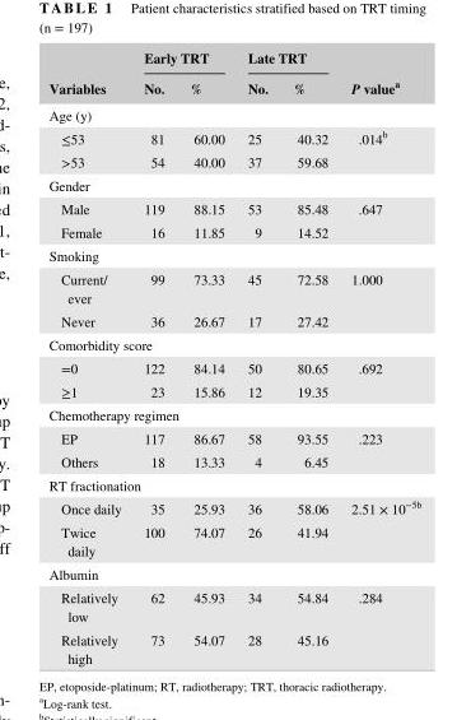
<table><thead><tr><td rowspan="2">Variables</td><td colspan="2">Early TRT</td><td colspan="2">Late TRT</td><td rowspan="2">P value<sup>a</sup></td></tr><tr><td>No.</td><td>%</td><td>No.</td><td>%</td></tr></thead><tbody><tr><td colspan="6">Age (y)</td></tr><tr><td>≤53</td><td>81</td><td>60.00</td><td>25</td><td>40.32</td><td rowspan="2">.014<sup>b</sup></td></tr><tr><td>&gt;53</td><td>54</td><td>40.00</td><td>37</td><td>59.68</td></tr><tr><td colspan="6">Gender</td></tr><tr><td>Male</td><td>119</td><td>88.15</td><td>53</td><td>85.48</td><td rowspan="2">.647</td></tr><tr><td>Female</td><td>16</td><td>11.85</td><td>9</td><td>14.52</td></tr><tr><td colspan="6">Smoking</td></tr><tr><td>Current/ ever</td><td>99</td><td>73.33</td><td>45</td><td>72.58</td><td rowspan="2">1.000</td></tr><tr><td>Never</td><td>36</td><td>26.67</td><td>17</td><td>27.42</td></tr><tr><td colspan="6">Comorbidity score</td></tr><tr><td>=0</td><td>122</td><td>84.14</td><td>50</td><td>80.65</td><td rowspan="2">.692</td></tr><tr><td>≥1</td><td>23</td><td>15.86</td><td>12</td><td>19.35</td></tr><tr><td colspan="6">Chemotherapy regimen</td></tr><tr><td>EP</td><td>117</td><td>86.67</td><td>58</td><td>93.55</td><td rowspan="2">.223</td></tr><tr><td>Others</td><td>18</td><td>13.33</td><td>4</td><td>6.45</td></tr><tr><td colspan="6">RT fractionation</td></tr><tr><td>Once daily</td><td>35</td><td>25.93</td><td>36</td><td>58.06</td><td rowspan="2">2.51 × 10<sup>−5</sup>b</td></tr><tr><td>Twice daily</td><td>100</td><td>74.07</td><td>26</td><td>41.94</td></tr><tr><td colspan="6">Albumin</td></tr><tr><td>Relatively low</td><td>62</td><td>45.93</td><td>34</td><td>54.84</td><td rowspan="2">.284</td></tr><tr><td>Relatively high</td><td>73</td><td>54.07</td><td>28</td><td>45.16</td></tr></tbody></table>